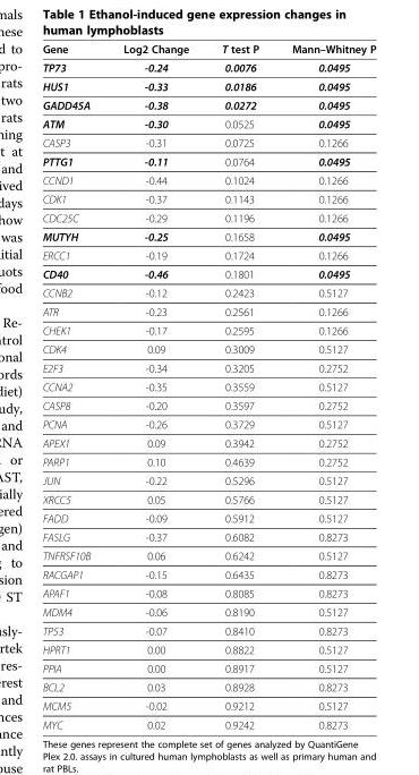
<table><thead><tr><td>Gene</td><td>Log2 Change</td><td>T test P</td><td>Mann–Whitney P</td></tr></thead><tbody><tr><td>TP73</td><td>-0.24</td><td>0.0076</td><td>0.0495</td></tr><tr><td>HUS1</td><td>-0.33</td><td>0.0186</td><td>0.0495</td></tr><tr><td>GADD45A</td><td>-0.38</td><td>0.0272</td><td>0.0495</td></tr><tr><td>ATM</td><td>-0.30</td><td>0.0525</td><td>0.0495</td></tr><tr><td>CASP3</td><td>-0.31</td><td>0.0725</td><td>0.1266</td></tr><tr><td>PTTG1</td><td>-0.11</td><td>0.0764</td><td>0.0495</td></tr><tr><td>CCND1</td><td>-0.44</td><td>0.1024</td><td>0.1266</td></tr><tr><td>CDK1</td><td>-0.37</td><td>0.1143</td><td>0.1266</td></tr><tr><td>CDC25C</td><td>-0.29</td><td>0.1196</td><td>0.1266</td></tr><tr><td>MUTYH</td><td>-0.25</td><td>0.1658</td><td>0.0495</td></tr><tr><td>ERCC1</td><td>-0.19</td><td>0.1724</td><td>0.1266</td></tr><tr><td>CD40</td><td>-0.46</td><td>0.1801</td><td>0.0495</td></tr><tr><td>CCNB2</td><td>-0.12</td><td>0.2423</td><td>0.5127</td></tr><tr><td>ATR</td><td>-0.23</td><td>0.2561</td><td>0.1266</td></tr><tr><td>CHEK1</td><td>-0.17</td><td>0.2595</td><td>0.1266</td></tr><tr><td>CDK4</td><td>0.09</td><td>0.3009</td><td>0.5127</td></tr><tr><td>E2F3</td><td>-0.34</td><td>0.3205</td><td>0.2752</td></tr><tr><td>CCNA2</td><td>-0.35</td><td>0.3559</td><td>0.5127</td></tr><tr><td>CASP8</td><td>-0.20</td><td>0.3597</td><td>0.2752</td></tr><tr><td>PCNA</td><td>-0.26</td><td>0.3729</td><td>0.5127</td></tr><tr><td>APEX1</td><td>0.09</td><td>0.3942</td><td>0.2752</td></tr><tr><td>PARP1</td><td>0.10</td><td>0.4639</td><td>0.2752</td></tr><tr><td>JUN</td><td>-0.22</td><td>0.5296</td><td>0.5127</td></tr><tr><td>XRCC5</td><td>0.05</td><td>0.5766</td><td>0.5127</td></tr><tr><td>FADD</td><td>-0.09</td><td>0.5912</td><td>0.5127</td></tr><tr><td>FASLG</td><td>-0.37</td><td>0.6082</td><td>0.8273</td></tr><tr><td>TNFRSF10B</td><td>0.06</td><td>0.6242</td><td>0.5127</td></tr><tr><td>RACGAP1</td><td>-0.15</td><td>0.6435</td><td>0.8273</td></tr><tr><td>APAF1</td><td>-0.08</td><td>0.8085</td><td>0.8273</td></tr><tr><td>MDM4</td><td>-0.06</td><td>0.8190</td><td>0.5127</td></tr><tr><td>TP53</td><td>-0.07</td><td>0.8410</td><td>0.8273</td></tr><tr><td>HPRT1</td><td>0.00</td><td>0.8822</td><td>0.5127</td></tr><tr><td>PPIA</td><td>0.00</td><td>0.8917</td><td>0.5127</td></tr><tr><td>BCL2</td><td>0.03</td><td>0.8928</td><td>0.8273</td></tr><tr><td>MCM5</td><td>-0.02</td><td>0.9212</td><td>0.5127</td></tr><tr><td>MYC</td><td>0.02</td><td>0.9242</td><td>0.8273</td></tr></tbody></table>